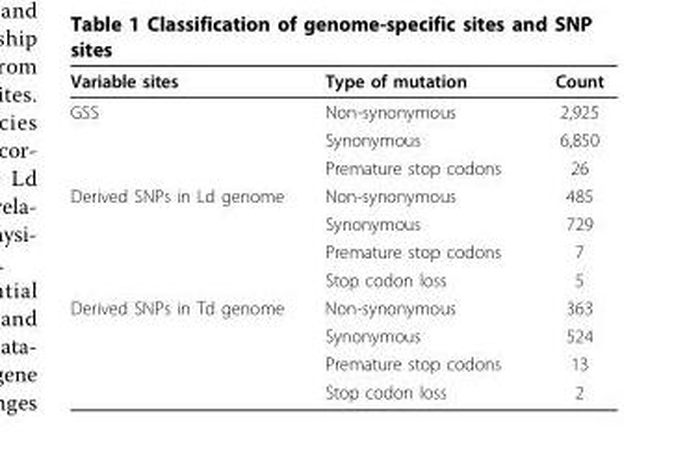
<table><thead><tr><td>Variable sites</td><td>Type of mutation</td><td>Count</td></tr></thead><tbody><tr><td rowspan="3">GSS</td><td>Non-synonymous</td><td>2,925</td></tr><tr><td>Synonymous</td><td>6,850</td></tr><tr><td>Premature stop codons</td><td>26</td></tr><tr><td rowspan="4">Derived SNPs in Ld genome</td><td>Non-synonymous</td><td>485</td></tr><tr><td>Synonymous</td><td>729</td></tr><tr><td>Premature stop codons</td><td>7</td></tr><tr><td>Stop codon loss</td><td>5</td></tr><tr><td rowspan="4">Derived SNPs in Td genome</td><td>Non-synonymous</td><td>363</td></tr><tr><td>Synonymous</td><td>524</td></tr><tr><td>Premature stop codons</td><td>13</td></tr><tr><td>Stop codon loss</td><td>2</td></tr></tbody></table>